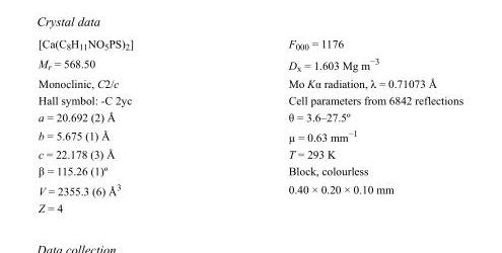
<table><tbody><tr><td>[Ca(C<sub>8</sub>H<sub>11</sub>NO<sub>5</sub>PS)<sub>2</sub>]</td><td>F000 = 1176</td></tr><tr><td>M<sub>r</sub> = 568.50</td><td>D<sub>x</sub> = 1.603 Mg m<sup>−3</sup></td></tr><tr><td>Monoclinic, C2/c</td><td>Mo Kα radiation, λ = 0.71073 Å</td></tr><tr><td>Hall symbol: -C 2yc</td><td>Cell parameters from 6842 reflections</td></tr><tr><td>a = 20.692 (2) Å</td><td>θ = 3.6–27.5º</td></tr><tr><td>b = 5.675 (1) Å</td><td>µ = 0.63 mm<sup>−1</sup></td></tr><tr><td>c = 22.178 (3) Å</td><td>T = 293 K</td></tr><tr><td>β = 115.26 (1)º</td><td>Block, colourless</td></tr><tr><td>V = 2355.3 (6) Å<sup>3</sup></td><td>0.40 × 0.20 × 0.10 mm</td></tr><tr><td>Z = 4</td><td></td></tr></tbody></table>